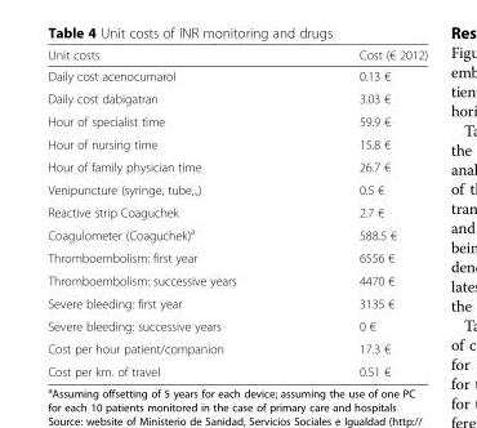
<table><thead><tr><td>Unit costs</td><td>Cost (€ 2012)</td></tr></thead><tbody><tr><td>Daily cost acenocumarol</td><td>0.13 €</td></tr><tr><td>Daily cost dabigatran</td><td>3.03 €</td></tr><tr><td>Hour of specialist time</td><td>59.9 €</td></tr><tr><td>Hour of nursing time</td><td>15.8 €</td></tr><tr><td>Hour of family physician time</td><td>26.7 €</td></tr><tr><td>Venipuncture (syringe, tube,.,)</td><td>0.5 €</td></tr><tr><td>Reactive strip Coaguchek</td><td>2.7 €</td></tr><tr><td>Coagulometer (Coaguchek)<sup>a</sup></td><td>588.5 €</td></tr><tr><td>Thromboembolism: first year</td><td>6556 €</td></tr><tr><td>Thromboembolism: successive years</td><td>4470 €</td></tr><tr><td>Severe bleeding: first year</td><td>3135 €</td></tr><tr><td>Severe bleeding: successive years</td><td>0 €</td></tr><tr><td>Cost per hour patient/companion</td><td>17.3 €</td></tr><tr><td>Cost per km. of travel</td><td>0.51 €</td></tr></tbody></table>